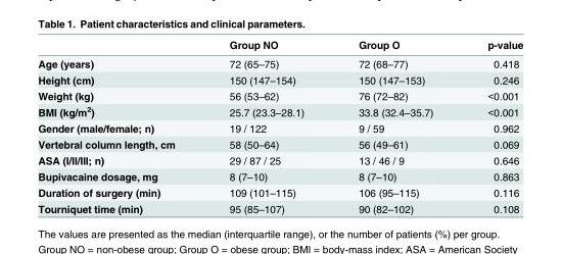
<table><thead><tr><td></td><td>Group NO</td><td>Group O</td><td>p-value</td></tr></thead><tbody><tr><td>Age (years)</td><td>72 (65–75)</td><td>72 (68–77)</td><td>0.418</td></tr><tr><td>Height (cm)</td><td>150 (147–154)</td><td>150 (147–153)</td><td>0.246</td></tr><tr><td>Weight (kg)</td><td>56 (53–62)</td><td>76 (72–82)</td><td>&lt;0.001</td></tr><tr><td>BMI (kg/m<sup>2</sup>)</td><td>25.7 (23.3–28.1)</td><td>33.8 (32.4–35.7)</td><td>&lt;0.001</td></tr><tr><td>Gender (male/female; n)</td><td>19 / 122</td><td>9 / 59</td><td>0.962</td></tr><tr><td>Vertebral column length, cm</td><td>58 (50–64)</td><td>56 (49–61)</td><td>0.069</td></tr><tr><td>ASA (I/II/III; n)</td><td>29 / 87 / 25</td><td>13 / 46 / 9</td><td>0.646</td></tr><tr><td>Bupivacaine dosage, mg</td><td>8 (7–10)</td><td>8 (7–10)</td><td>0.863</td></tr><tr><td>Duration of surgery (min)</td><td>109 (101–115)</td><td>106 (95–115)</td><td>0.116</td></tr><tr><td>Tourniquet time (min)</td><td>95 (85–107)</td><td>90 (82–102)</td><td>0.108</td></tr></tbody></table>